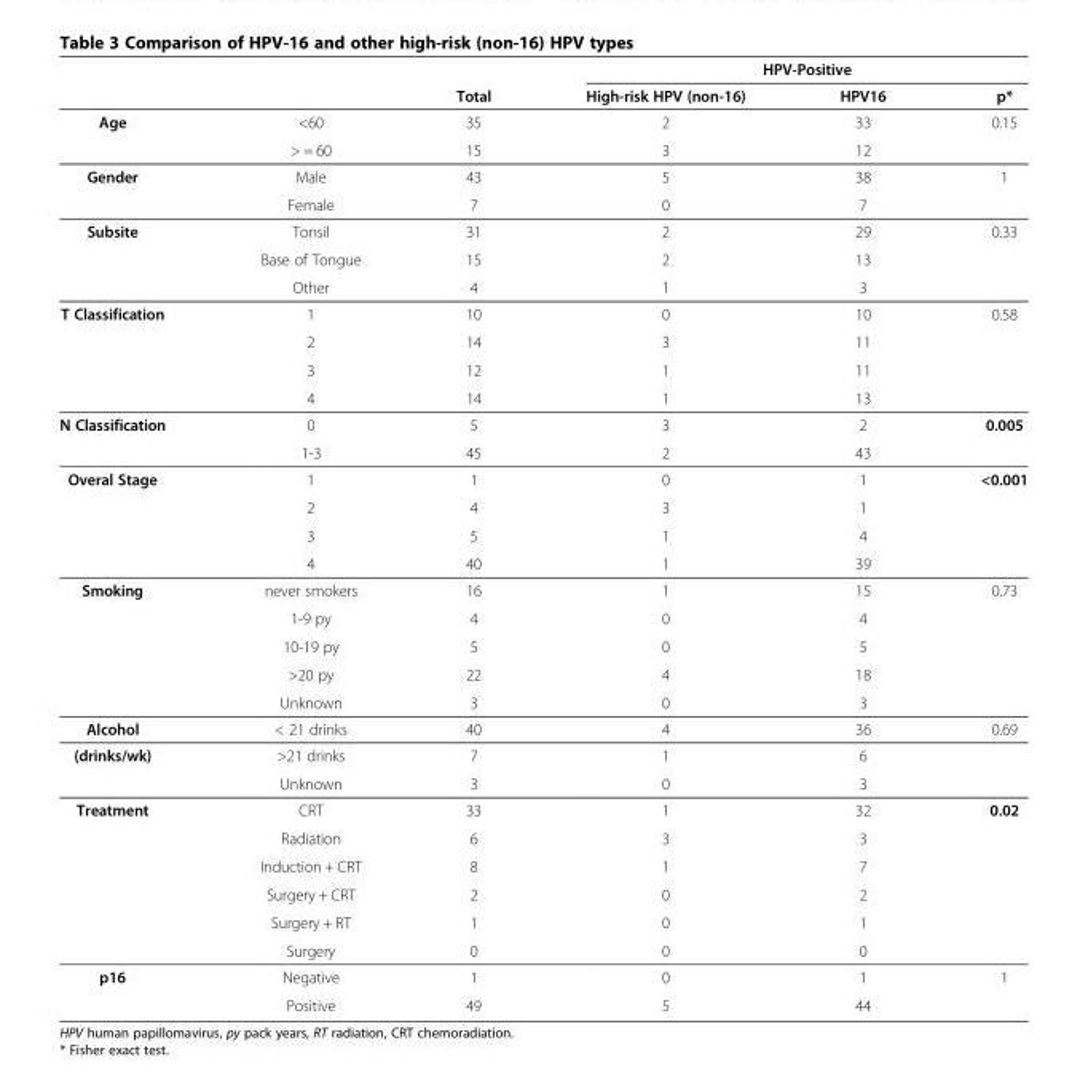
<table><thead><tr><td rowspan="2"></td><td rowspan="2"></td><td rowspan="2">Total</td><td colspan="3">HPV-Positive</td></tr><tr><td>High-risk HPV (non-16)</td><td>HPV16</td><td>p*</td></tr></thead><tbody><tr><td rowspan="2">Age</td><td>&lt;60</td><td>35</td><td>2</td><td>33</td><td>0.15</td></tr><tr><td>&gt; = 60</td><td>15</td><td>3</td><td>12</td><td></td></tr><tr><td rowspan="2">Gender</td><td>Male</td><td>43</td><td>5</td><td>38</td><td>1</td></tr><tr><td>Female</td><td>7</td><td>0</td><td>7</td><td></td></tr><tr><td rowspan="3">Subsite</td><td>Tonsil</td><td>31</td><td>2</td><td>29</td><td>0.33</td></tr><tr><td>Base of Tongue</td><td>15</td><td>2</td><td>13</td><td></td></tr><tr><td>Other</td><td>4</td><td>1</td><td>3</td><td></td></tr><tr><td rowspan="4">T Classification</td><td>1</td><td>10</td><td>0</td><td>10</td><td>0.58</td></tr><tr><td>2</td><td>14</td><td>3</td><td>11</td><td></td></tr><tr><td>3</td><td>12</td><td>1</td><td>11</td><td></td></tr><tr><td>4</td><td>14</td><td>1</td><td>13</td><td></td></tr><tr><td rowspan="2">N Classification</td><td>0</td><td>5</td><td>3</td><td>2</td><td>0.005</td></tr><tr><td>1-3</td><td>45</td><td>2</td><td>43</td><td></td></tr><tr><td rowspan="4">Overal Stage</td><td>1</td><td>1</td><td>0</td><td>1</td><td>&lt;0.001</td></tr><tr><td>2</td><td>4</td><td>3</td><td>1</td><td></td></tr><tr><td>3</td><td>5</td><td>1</td><td>4</td><td></td></tr><tr><td>4</td><td>40</td><td>1</td><td>39</td><td></td></tr><tr><td rowspan="5">Smoking</td><td>never smokers</td><td>16</td><td>1</td><td>15</td><td>0.73</td></tr><tr><td>1-9 py</td><td>4</td><td>0</td><td>4</td><td></td></tr><tr><td>10-19 py</td><td>5</td><td>0</td><td>5</td><td></td></tr><tr><td>&gt;20 py</td><td>22</td><td>4</td><td>18</td><td></td></tr><tr><td>Unknown</td><td>3</td><td>0</td><td>3</td><td></td></tr><tr><td>Alcohol</td><td>&lt; 21 drinks</td><td>40</td><td>4</td><td>36</td><td>0.69</td></tr><tr><td rowspan="2">(drinks/wk)</td><td>&gt;21 drinks</td><td>7</td><td>1</td><td>6</td><td></td></tr><tr><td>Unknown</td><td>3</td><td>0</td><td>3</td><td></td></tr><tr><td rowspan="6">Treatment</td><td>CRT</td><td>33</td><td>1</td><td>32</td><td>0.02</td></tr><tr><td>Radiation</td><td>6</td><td>3</td><td>3</td><td></td></tr><tr><td>Induction + CRT</td><td>8</td><td>1</td><td>7</td><td></td></tr><tr><td>Surgery + CRT</td><td>2</td><td>0</td><td>2</td><td></td></tr><tr><td>Surgery + RT</td><td>1</td><td>0</td><td>1</td><td></td></tr><tr><td>Surgery</td><td>0</td><td>0</td><td>0</td><td></td></tr><tr><td rowspan="2">p16</td><td>Negative</td><td>1</td><td>0</td><td>1</td><td>1</td></tr><tr><td>Positive</td><td>49</td><td>5</td><td>44</td><td></td></tr></tbody></table>